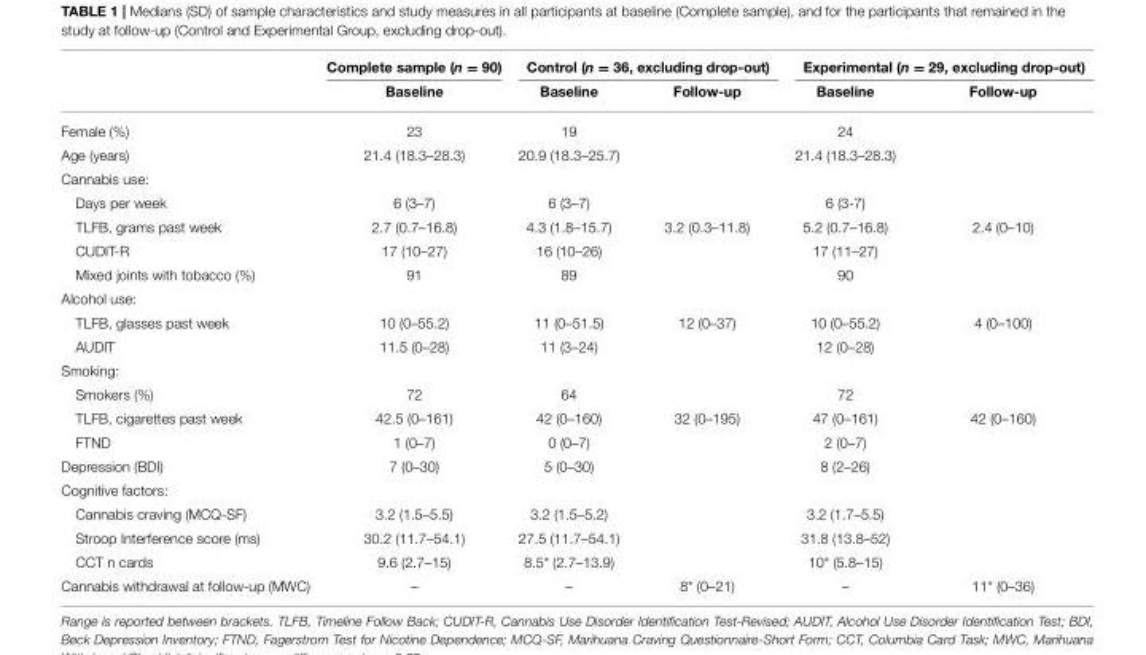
<table><thead><tr><td rowspan="2"></td><td rowspan="2">Complete sample (n = 90) Baseline</td><td colspan="2">Control (n = 36, excluding drop-out)</td><td colspan="2">Experimental (n = 29, excluding drop-out)</td></tr><tr><td>Baseline</td><td>Follow-up</td><td>Baseline</td><td>Follow-up</td></tr></thead><tbody><tr><td>Female (%)</td><td>23</td><td>19</td><td></td><td>24</td><td></td></tr><tr><td>Age (years)</td><td>21.4 (18.3–28.3)</td><td>20.9 (18.3–25.7)</td><td></td><td>21.4 (18.3–28.3)</td><td></td></tr><tr><td colspan="6">Cannabis use:</td></tr><tr><td>Days per week</td><td>6 (3–7)</td><td>6 (3–7)</td><td></td><td>6 (3-7)</td><td></td></tr><tr><td>TLFB, grams past week</td><td>2.7 (0.7–16.8)</td><td>4.3 (1.8–15.7)</td><td>3.2 (0.3–11.8)</td><td>5.2 (0.7–16.8)</td><td>2.4 (0–10)</td></tr><tr><td>CUDIT-R</td><td>17 (10–27)</td><td>16 (10–26)</td><td></td><td>17 (11–27)</td><td></td></tr><tr><td>Mixed joints with tobacco (%)</td><td>91</td><td>89</td><td></td><td>90</td><td></td></tr><tr><td colspan="6">Alcohol use:</td></tr><tr><td>TLFB, glasses past week</td><td>10 (0–55.2)</td><td>11 (0–51.5)</td><td>12 (0–37)</td><td>10 (0–55.2)</td><td>4 (0–100)</td></tr><tr><td>AUDIT</td><td>11.5 (0–28)</td><td>11 (3–24)</td><td></td><td>12 (0–28)</td><td></td></tr><tr><td colspan="6">Smoking:</td></tr><tr><td>Smokers (%)</td><td>72</td><td>64</td><td></td><td>72</td><td></td></tr><tr><td>TLFB, cigarettes past week</td><td>42.5 (0–161)</td><td>42 (0–160)</td><td>32 (0–195)</td><td>47 (0–161)</td><td>42 (0–160)</td></tr><tr><td>FTND</td><td>1 (0–7)</td><td>0 (0–7)</td><td></td><td>2 (0–7)</td><td></td></tr><tr><td>Depression (BDI)</td><td>7 (0–30)</td><td>5 (0–30)</td><td></td><td>8 (2–26)</td><td></td></tr><tr><td colspan="6">Cognitive factors:</td></tr><tr><td>Cannabis craving (MCQ-SF)</td><td>3.2 (1.5–5.5)</td><td>3.2 (1.5–5.2)</td><td></td><td>3.2 (1.7–5.5)</td><td></td></tr><tr><td>Stroop Interference score (ms)</td><td>30.2 (11.7–54.1)</td><td>27.5 (11.7–54.1)</td><td></td><td>31.8 (13.8–52)</td><td></td></tr><tr><td>CCT n cards</td><td>9.6 (2.7–15)</td><td>8.5* (2.7–13.9)</td><td></td><td>10* (5.8–15)</td><td></td></tr><tr><td>Cannabis withdrawal at follow-up (MWC)</td><td>–</td><td>–</td><td>8* (0–21)</td><td>–</td><td>11* (0–36)</td></tr></tbody></table>